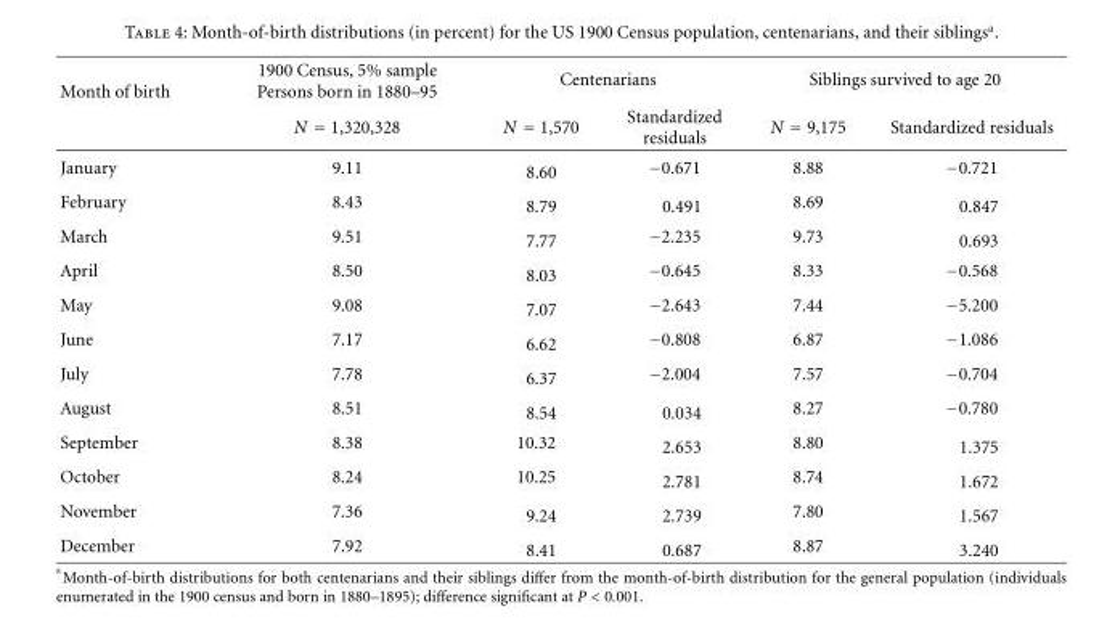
<table><thead><tr><td rowspan="2">Month of birth</td><td rowspan="2">1900 Census, 5% sample Persons born in 1880–95 N = 1,320,328</td><td colspan="2">Centenarians</td><td colspan="2">Siblings survived to age 20</td></tr><tr><td>N = 1,570</td><td>Standardized residuals</td><td>N = 9,175</td><td>Standardized residuals</td></tr></thead><tbody><tr><td>January</td><td>9.11</td><td>8.60</td><td>−0.671</td><td>8.88</td><td>−0.721</td></tr><tr><td>February</td><td>8.43</td><td>8.79</td><td>0.491</td><td>8.69</td><td>0.847</td></tr><tr><td>March</td><td>9.51</td><td>7.77</td><td>−2.235</td><td>9.73</td><td>0.693</td></tr><tr><td>April</td><td>8.50</td><td>8.03</td><td>−0.645</td><td>8.33</td><td>−0.568</td></tr><tr><td>May</td><td>9.08</td><td>7.07</td><td>−2.643</td><td>7.44</td><td>−5.200</td></tr><tr><td>June</td><td>7.17</td><td>6.62</td><td>−0.808</td><td>6.87</td><td>−1.086</td></tr><tr><td>July</td><td>7.78</td><td>6.37</td><td>−2.004</td><td>7.57</td><td>−0.704</td></tr><tr><td>August</td><td>8.51</td><td>8.54</td><td>0.034</td><td>8.27</td><td>−0.780</td></tr><tr><td>September</td><td>8.38</td><td>10.32</td><td>2.653</td><td>8.80</td><td>1.375</td></tr><tr><td>October</td><td>8.24</td><td>10.25</td><td>2.781</td><td>8.74</td><td>1.672</td></tr><tr><td>November</td><td>7.36</td><td>9.24</td><td>2.739</td><td>7.80</td><td>1.567</td></tr><tr><td>December</td><td>7.92</td><td>8.41</td><td>0.687</td><td>8.87</td><td>3.240</td></tr></tbody></table>